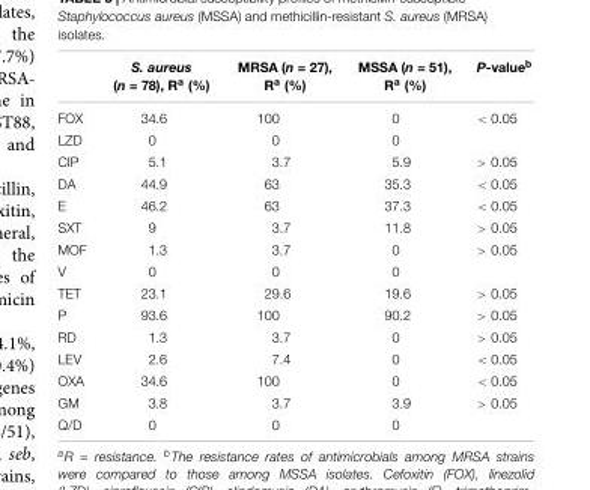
<table><thead><tr><td></td><td>S. aureus (n = 78), R<sup>a</sup> (%)</td><td>MRSA (n = 27), R<sup>a</sup> (%)</td><td>MSSA (n = 51), R<sup>a</sup> (%)</td><td>P-value<sup>b</sup></td></tr></thead><tbody><tr><td>FOX</td><td>34.6</td><td>100</td><td>0</td><td>&lt; 0.05</td></tr><tr><td>LZD</td><td>0</td><td>0</td><td>0</td><td></td></tr><tr><td>CIP</td><td>5.1</td><td>3.7</td><td>5.9</td><td>&gt; 0.05</td></tr><tr><td>DA</td><td>44.9</td><td>63</td><td>35.3</td><td>&lt; 0.05</td></tr><tr><td>E</td><td>46.2</td><td>63</td><td>37.3</td><td>&lt; 0.05</td></tr><tr><td>SXT</td><td>9</td><td>3.7</td><td>11.8</td><td>&gt; 0.05</td></tr><tr><td>MOF</td><td>1.3</td><td>3.7</td><td>0</td><td>&gt; 0.05</td></tr><tr><td>V</td><td>0</td><td>0</td><td>0</td><td></td></tr><tr><td>TET</td><td>23.1</td><td>29.6</td><td>19.6</td><td>&gt; 0.05</td></tr><tr><td>P</td><td>93.6</td><td>100</td><td>90.2</td><td>&gt; 0.05</td></tr><tr><td>RD</td><td>1.3</td><td>3.7</td><td>0</td><td>&gt; 0.05</td></tr><tr><td>LEV</td><td>2.6</td><td>7.4</td><td>0</td><td>&lt; 0.05</td></tr><tr><td>OXA</td><td>34.6</td><td>100</td><td>0</td><td>&lt; 0.05</td></tr><tr><td>GM</td><td>3.8</td><td>3.7</td><td>3.9</td><td>&gt; 0.05</td></tr><tr><td>Q/D</td><td>0</td><td>0</td><td>0</td><td></td></tr></tbody></table>